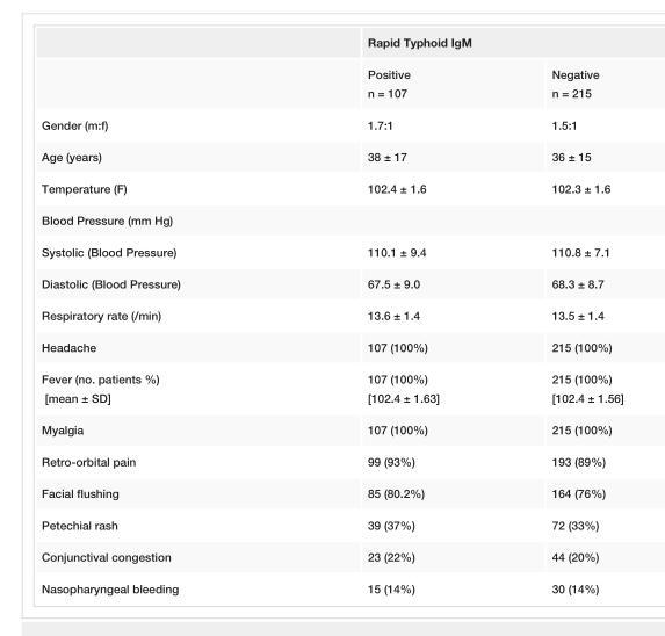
<table><thead><tr><td rowspan="2"></td><td colspan="2">Rapid Typhoid IgM</td></tr><tr><td>Positive n = 107</td><td>Negative n = 215</td></tr></thead><tbody><tr><td>Gender (m:f)</td><td>1.7:1</td><td>1.5:1</td></tr><tr><td>Age (years)</td><td>38 ± 17</td><td>36 ± 15</td></tr><tr><td>Temperature (F)</td><td>102.4 ± 1.6</td><td>102.3 ± 1.6</td></tr><tr><td colspan="3">Blood Pressure (mm Hg)</td></tr><tr><td>Systolic (Blood Pressure)</td><td>110.1 ± 9.4</td><td>110.8 ± 7.1</td></tr><tr><td>Diastolic (Blood Pressure)</td><td>67.5 ± 9.0</td><td>68.3 ± 8.7</td></tr><tr><td>Respiratory rate (/min)</td><td>13.6 ± 1.4</td><td>13.5 ± 1.4</td></tr><tr><td>Headache</td><td>107 (100%)</td><td>215 (100%)</td></tr><tr><td>Fever (no. patients %) [mean ± SD]</td><td>107 (100%) [102.4 ± 1.63]</td><td>215 (100%) [102.4 ± 1.56]</td></tr><tr><td>Myalgia</td><td>107 (100%)</td><td>215 (100%)</td></tr><tr><td>Retro-orbital pain</td><td>99 (93%)</td><td>193 (89%)</td></tr><tr><td>Facial flushing</td><td>85 (80.2%)</td><td>164 (76%)</td></tr><tr><td>Petechial rash</td><td>39 (37%)</td><td>72 (33%)</td></tr><tr><td>Conjunctival congestion</td><td>23 (22%)</td><td>44 (20%)</td></tr><tr><td>Nasopharyngeal bleeding</td><td>15 (14%)</td><td>30 (14%)</td></tr></tbody></table>